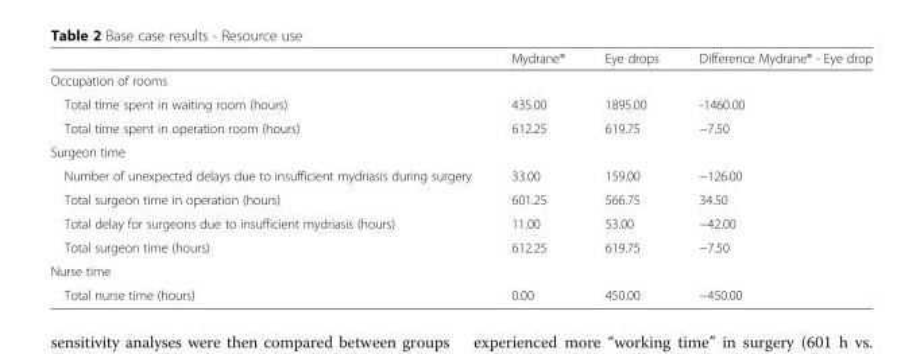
<table><thead><tr><td></td><td>Mydrane®</td><td>Eye drops</td><td>Difference Mydrane® - Eye drop</td></tr></thead><tbody><tr><td colspan="4">Occupation of rooms</td></tr><tr><td>Total time spent in waiting room (hours)</td><td>435.00</td><td>1895.00</td><td>-1460.00</td></tr><tr><td>Total time spent in operation room (hours)</td><td>612.25</td><td>619.75</td><td>−7.50</td></tr><tr><td colspan="4">Surgeon time</td></tr><tr><td>Number of unexpected delays due to insufficient mydriasis during surgery</td><td>33.00</td><td>159.00</td><td>−126.00</td></tr><tr><td>Total surgeon time in operation (hours)</td><td>601.25</td><td>566.75</td><td>34.50</td></tr><tr><td>Total delay for surgeons due to insufficient mydriasis (hours)</td><td>11.00</td><td>53.00</td><td>−42.00</td></tr><tr><td>Total surgeon time (hours)</td><td>612.25</td><td>619.75</td><td>−7.50</td></tr><tr><td colspan="4">Nurse time</td></tr><tr><td>Total nurse time (hours)</td><td>0.00</td><td>450.00</td><td>−450.00</td></tr></tbody></table>